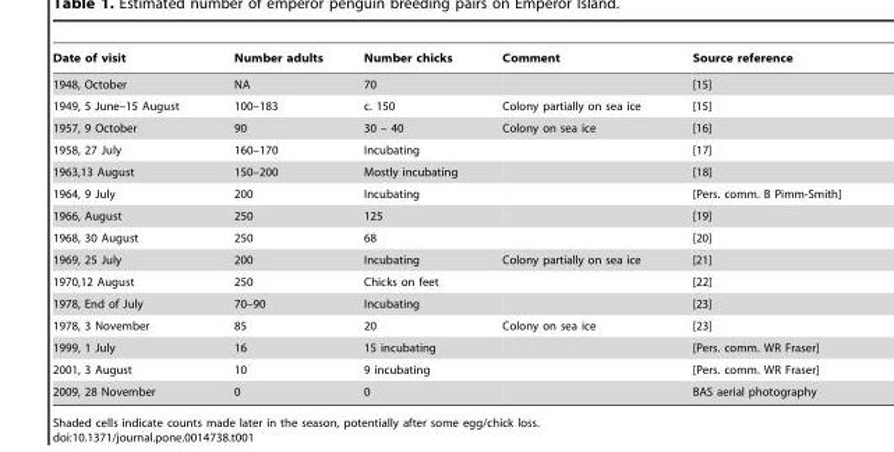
<table><thead><tr><td>Date of visit</td><td>Number adults</td><td>Number chicks</td><td>Comment</td><td>Source reference</td></tr></thead><tbody><tr><td>1948, October</td><td>NA</td><td>70</td><td></td><td>[15]</td></tr><tr><td>1949, 5 June–15 August</td><td>100–183</td><td>c. 150</td><td>Colony partially on sea ice</td><td>[15]</td></tr><tr><td>1957, 9 October</td><td>90</td><td>30 – 40</td><td>Colony on sea ice</td><td>[16]</td></tr><tr><td>1958, 27 July</td><td>160–170</td><td>Incubating</td><td></td><td>[17]</td></tr><tr><td>1963,13 August</td><td>150–200</td><td>Mostly incubating</td><td></td><td>[18]</td></tr><tr><td>1964, 9 July</td><td>200</td><td>Incubating</td><td></td><td>[Pers. comm. B Pimm-Smith]</td></tr><tr><td>1966, August</td><td>250</td><td>125</td><td></td><td>[19]</td></tr><tr><td>1968, 30 August</td><td>250</td><td>68</td><td></td><td>[20]</td></tr><tr><td>1969, 25 July</td><td>200</td><td>Incubating</td><td>Colony partially on sea ice</td><td>[21]</td></tr><tr><td>1970,12 August</td><td>250</td><td>Chicks on feet</td><td></td><td>[22]</td></tr><tr><td>1978, End of July</td><td>70–90</td><td>Incubating</td><td></td><td>[23]</td></tr><tr><td>1978, 3 November</td><td>85</td><td>20</td><td>Colony on sea ice</td><td>[23]</td></tr><tr><td>1999, 1 July</td><td>16</td><td>15 incubating</td><td></td><td>[Pers. comm. WR Fraser]</td></tr><tr><td>2001, 3 August</td><td>10</td><td>9 incubating</td><td></td><td>[Pers. comm. WR Fraser]</td></tr><tr><td>2009, 28 November</td><td>0</td><td>0</td><td></td><td>BAS aerial photography</td></tr></tbody></table>